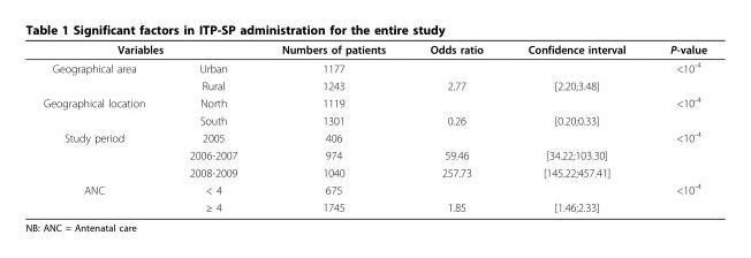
<table><thead><tr><td colspan="2">Variables</td><td rowspan="2">Numbers of patients 1177</td><td rowspan="2">Odds ratio</td><td rowspan="2">Confidence interval</td><td rowspan="2">P-value &lt;10<sup>-4</sup></td></tr><tr><td>Geographical area</td><td>Urban</td></tr></thead><tbody><tr><td></td><td>Rural</td><td>1243</td><td>2.77</td><td>[2.20;3.48]</td><td></td></tr><tr><td rowspan="2">Geographical location</td><td>North</td><td>1119</td><td></td><td></td><td>&lt;10<sup>-4</sup></td></tr><tr><td>South</td><td>1301</td><td>0.26</td><td>[0.20;0.33]</td><td></td></tr><tr><td rowspan="3">Study period</td><td>2005</td><td>406</td><td></td><td></td><td>&lt;10<sup>-4</sup></td></tr><tr><td>2006-2007</td><td>974</td><td>59.46</td><td>[34.22;103.30]</td><td></td></tr><tr><td>2008-2009</td><td>1040</td><td>257.73</td><td>[145.22;457.41]</td><td></td></tr><tr><td rowspan="2">ANC</td><td>&lt; 4</td><td>675</td><td></td><td></td><td>&lt;10<sup>-4</sup></td></tr><tr><td>≥ 4</td><td>1745</td><td>1.85</td><td>[1.46;2.33]</td><td></td></tr></tbody></table>